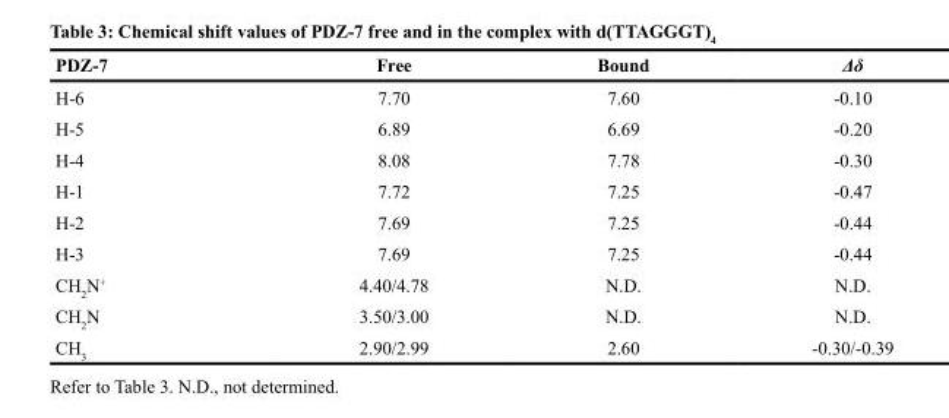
<table><thead><tr><td>PDZ-7</td><td>Free</td><td>Bound</td><td>Δδ</td></tr></thead><tbody><tr><td>H-6</td><td>7.70</td><td>7.60</td><td>-0.10</td></tr><tr><td>H-5</td><td>6.89</td><td>6.69</td><td>-0.20</td></tr><tr><td>H-4</td><td>8.08</td><td>7.78</td><td>-0.30</td></tr><tr><td>H-1</td><td>7.72</td><td>7.25</td><td>-0.47</td></tr><tr><td>H-2</td><td>7.69</td><td>7.25</td><td>-0.44</td></tr><tr><td>H-3</td><td>7.69</td><td>7.25</td><td>-0.44</td></tr><tr><td>CH<sub>2</sub>N<sup>+</sup></td><td>4.40/4.78</td><td>N.D.</td><td>N.D.</td></tr><tr><td>CH<sub>2</sub>N</td><td>3.50/3.00</td><td>N.D.</td><td>N.D.</td></tr><tr><td>CH<sub>3</sub></td><td>2.90/2.99</td><td>2.60</td><td>-0.30/-0.39</td></tr></tbody></table>